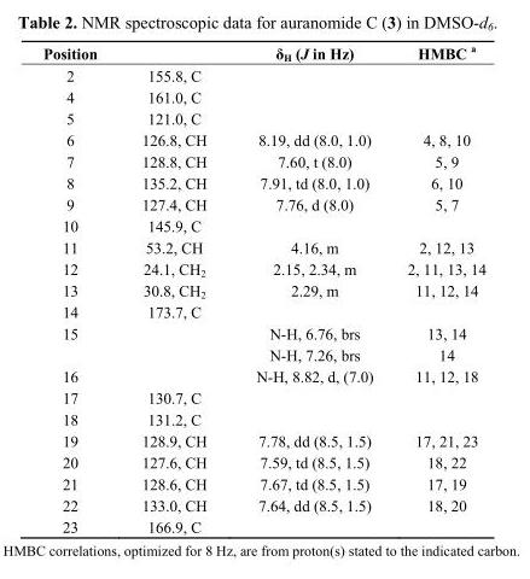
<table><thead><tr><td>Position</td><td></td><td>δ<sub>H</sub> (J in Hz)</td><td>HMBC <sup>a</sup></td></tr></thead><tbody><tr><td>2</td><td>155.8, C</td><td></td><td></td></tr><tr><td>4</td><td>161.0, C</td><td></td><td></td></tr><tr><td>5</td><td>121.0, C</td><td></td><td></td></tr><tr><td>6</td><td>126.8, CH</td><td>8.19, dd (8.0, 1.0)</td><td>4, 8, 10</td></tr><tr><td>7</td><td>128.8, CH</td><td>7.60, t (8.0)</td><td>5, 9</td></tr><tr><td>8</td><td>135.2, CH</td><td>7.91, td (8.0, 1.0)</td><td>6, 10</td></tr><tr><td>9</td><td>127.4, CH</td><td>7.76, d (8.0)</td><td>5, 7</td></tr><tr><td>10</td><td>145.9, C</td><td></td><td></td></tr><tr><td>11</td><td>53.2, CH</td><td>4.16, m</td><td>2, 12, 13</td></tr><tr><td>12</td><td>24.1, CH<sub>2</sub></td><td>2.15, 2.34, m</td><td>2, 11, 13, 14</td></tr><tr><td>13</td><td>30.8, CH<sub>2</sub></td><td>2.29, m</td><td>11, 12, 14</td></tr><tr><td>14</td><td>173.7, C</td><td></td><td></td></tr><tr><td rowspan="2">15</td><td></td><td>N-H, 6.76, brs</td><td>13, 14</td></tr><tr><td></td><td>N-H, 7.26, brs</td><td>14</td></tr><tr><td>16</td><td></td><td>N-H, 8.82, d, (7.0)</td><td>11, 12, 18</td></tr><tr><td>17</td><td>130.7, C</td><td></td><td></td></tr><tr><td>18</td><td>131.2, C</td><td></td><td></td></tr><tr><td>19</td><td>128.9, CH</td><td>7.78, dd (8.5, 1.5)</td><td>17, 21, 23</td></tr><tr><td>20</td><td>127.6, CH</td><td>7.59, td (8.5, 1.5)</td><td>18, 22</td></tr><tr><td>21</td><td>128.6, CH</td><td>7.67, td (8.5, 1.5)</td><td>17, 19</td></tr><tr><td>22</td><td>133.0, CH</td><td>7.64, dd (8.5, 1.5)</td><td>18, 20</td></tr><tr><td>23</td><td>166.9, C</td><td></td><td></td></tr></tbody></table>